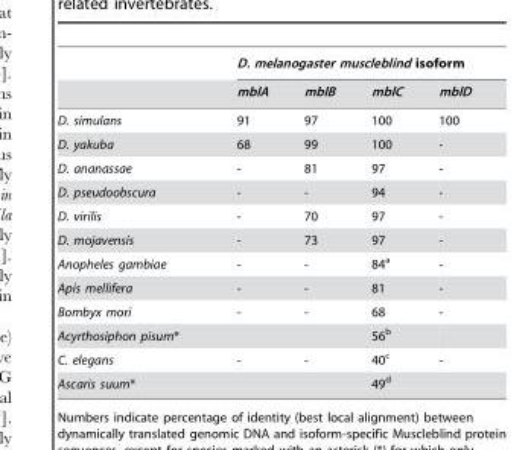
<table><thead><tr><td rowspan="2"></td><td colspan="4">D. melanogaster muscleblind isoform</td></tr><tr><td>mblA</td><td>mblB</td><td>mblC</td><td>mblD</td></tr></thead><tbody><tr><td>D. simulans</td><td>91</td><td>97</td><td>100</td><td>100</td></tr><tr><td>D. yakuba</td><td>68</td><td>99</td><td>100</td><td>-</td></tr><tr><td>D. ananassae</td><td>-</td><td>81</td><td>97</td><td>-</td></tr><tr><td>D. pseudoobscura</td><td>-</td><td>-</td><td>94</td><td>-</td></tr><tr><td>D. virilis</td><td>-</td><td>70</td><td>97</td><td>-</td></tr><tr><td>D. mojavensis</td><td>-</td><td>73</td><td>97</td><td>-</td></tr><tr><td>Anopheles gambiae</td><td>-</td><td>-</td><td>84<sup>a</sup></td><td>-</td></tr><tr><td>Apis mellifera</td><td>-</td><td>-</td><td>81</td><td>-</td></tr><tr><td>Bombyx mori</td><td>-</td><td>-</td><td>68</td><td>-</td></tr><tr><td>Acyrthosiphon pisum*</td><td></td><td></td><td>56<sup>b</sup></td><td></td></tr><tr><td>C. elegans</td><td>-</td><td>-</td><td>40<sup>c</sup></td><td>-</td></tr><tr><td>Ascaris suum*</td><td></td><td></td><td>49<sup>d</sup></td><td></td></tr></tbody></table>